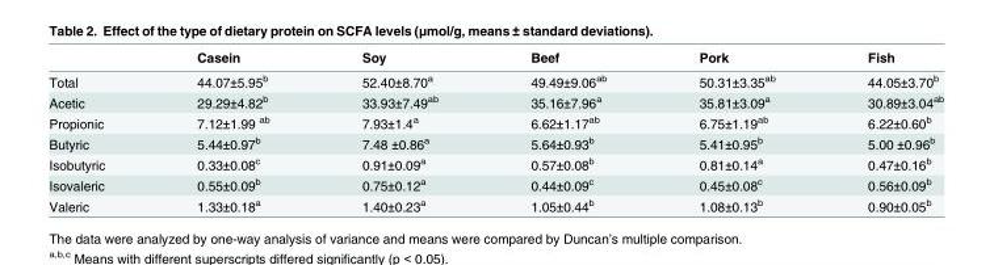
<table><thead><tr><td></td><td>Casein</td><td>Soy</td><td>Beef</td><td>Pork</td><td>Fish</td></tr></thead><tbody><tr><td>Total</td><td>44.07±5.95<sup>b</sup></td><td>52.40±8.70<sup>a</sup></td><td>49.49±9.06<sup>ab</sup></td><td>50.31±3.35<sup>ab</sup></td><td>44.05±3.70<sup>b</sup></td></tr><tr><td>Acetic</td><td>29.29±4.82<sup>b</sup></td><td>33.93±7.49<sup>ab</sup></td><td>35.16±7.96<sup>a</sup></td><td>35.81±3.09<sup>a</sup></td><td>30.89±3.04<sup>ab</sup></td></tr><tr><td>Propionic</td><td>7.12±1.99 <sup>ab</sup></td><td>7.93±1.4<sup>a</sup></td><td>6.62±1.17<sup>ab</sup></td><td>6.75±1.19<sup>ab</sup></td><td>6.22±0.60<sup>b</sup></td></tr><tr><td>Butyric</td><td>5.44±0.97<sup>b</sup></td><td>7.48 ±0.86<sup>a</sup></td><td>5.64±0.93<sup>b</sup></td><td>5.41±0.95<sup>b</sup></td><td>5.00 ±0.96<sup>b</sup></td></tr><tr><td>Isobutyric</td><td>0.33±0.08<sup>c</sup></td><td>0.91±0.09<sup>a</sup></td><td>0.57±0.08<sup>b</sup></td><td>0.81±0.14<sup>a</sup></td><td>0.47±0.16<sup>b</sup></td></tr><tr><td>Isovaleric</td><td>0.55±0.09<sup>b</sup></td><td>0.75±0.12<sup>a</sup></td><td>0.44±0.09<sup>c</sup></td><td>0.45±0.08<sup>c</sup></td><td>0.56±0.09<sup>b</sup></td></tr><tr><td>Valeric</td><td>1.33±0.18<sup>a</sup></td><td>1.40±0.23<sup>a</sup></td><td>1.05±0.44<sup>b</sup></td><td>1.08±0.13<sup>b</sup></td><td>0.90±0.05<sup>b</sup></td></tr></tbody></table>